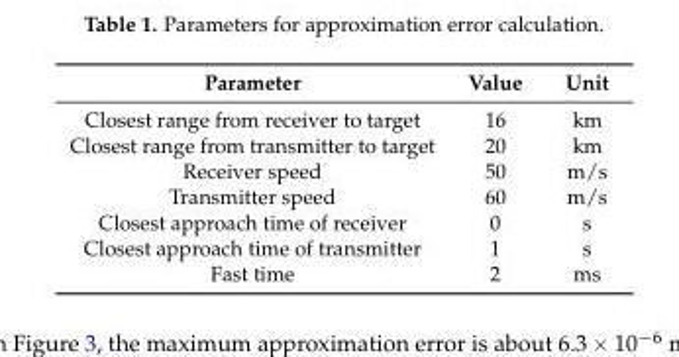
<table><thead><tr><td>Parameter</td><td>Value</td><td>Unit</td></tr></thead><tbody><tr><td>Closest range from receiver to target</td><td>16</td><td>km</td></tr><tr><td>Closest range from transmitter to target</td><td>20</td><td>km</td></tr><tr><td>Receiver speed</td><td>50</td><td>m/s</td></tr><tr><td>Transmitter speed</td><td>60</td><td>m/s</td></tr><tr><td>Closest approach time of receiver</td><td>0</td><td>s</td></tr><tr><td>Closest approach time of transmitter</td><td>1</td><td>s</td></tr><tr><td>Fast time</td><td>2</td><td>ms</td></tr></tbody></table>